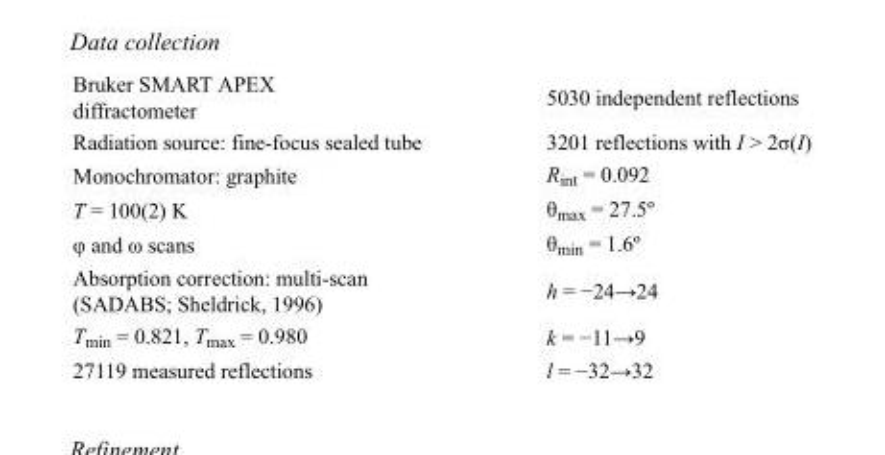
<table><tbody><tr><td>Bruker SMART APEX diffractometer</td><td>5030 independent reflections</td></tr><tr><td>Radiation source: fine-focus sealed tube</td><td>3201 reflections with I &gt; 2σ(I)</td></tr><tr><td>Monochromator: graphite</td><td>R<sub>int</sub> = 0.092</td></tr><tr><td>T = 100(2) K</td><td>θ<sub>max</sub> = 27.5º</td></tr><tr><td>φ and ω scans</td><td>θ<sub>min</sub> = 1.6º</td></tr><tr><td>Absorption correction: multi-scan (SADABS; Sheldrick, 1996)</td><td>h = −24→24</td></tr><tr><td>T<sub>min</sub> = 0.821, T<sub>max</sub> = 0.980</td><td>k = −11→9</td></tr><tr><td>27119 measured reflections</td><td>l = −32→32</td></tr></tbody></table>